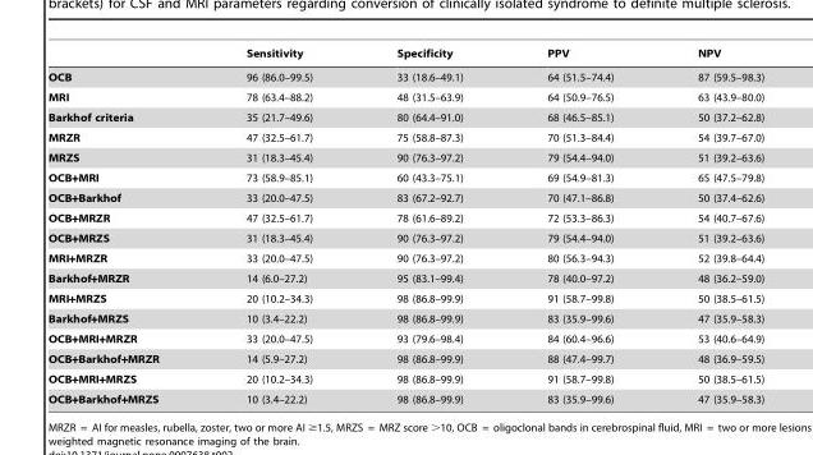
<table><thead><tr><td></td><td>Sensitivity</td><td>Specificity</td><td>PPV</td><td>NPV</td></tr></thead><tbody><tr><td>OCB</td><td>96 (86.0–99.5)</td><td>33 (18.6–49.1)</td><td>64 (51.5–74.4)</td><td>87 (59.5–98.3)</td></tr><tr><td>MRI</td><td>78 (63.4–88.2)</td><td>48 (31.5–63.9)</td><td>64 (50.9–76.5)</td><td>63 (43.9–80.0)</td></tr><tr><td>Barkhof criteria</td><td>35 (21.7–49.6)</td><td>80 (64.4–91.0)</td><td>68 (46.5–85.1)</td><td>50 (37.2–62.8)</td></tr><tr><td>MRZR</td><td>47 (32.5–61.7)</td><td>75 (58.8–87.3)</td><td>70 (51.3–84.4)</td><td>54 (39.7–67.0)</td></tr><tr><td>MRZS</td><td>31 (18.3–45.4)</td><td>90 (76.3–97.2)</td><td>79 (54.4–94.0)</td><td>51 (39.2–63.6)</td></tr><tr><td>OCB+MRI</td><td>73 (58.9–85.1)</td><td>60 (43.3–75.1)</td><td>69 (54.9–81.3)</td><td>65 (47.5–79.8)</td></tr><tr><td>OCB+Barkhof</td><td>33 (20.0–47.5)</td><td>83 (67.2–92.7)</td><td>70 (47.1–86.8)</td><td>50 (37.4–62.6)</td></tr><tr><td>OCB+MRZR</td><td>47 (32.5–61.7)</td><td>78 (61.6–89.2)</td><td>72 (53.3–86.3)</td><td>54 (40.7–67.6)</td></tr><tr><td>OCB+MRZS</td><td>31 (18.3–45.4)</td><td>90 (76.3–97.2)</td><td>79 (54.4–94.0)</td><td>51 (39.2–63.6)</td></tr><tr><td>MRI+MRZR</td><td>33 (20.0–47.5)</td><td>90 (76.3–97.2)</td><td>80 (56.3–94.3)</td><td>52 (39.8–64.4)</td></tr><tr><td>Barkhof+MRZR</td><td>14 (6.0–27.2)</td><td>95 (83.1–99.4)</td><td>78 (40.0–97.2)</td><td>48 (36.2–59.0)</td></tr><tr><td>MRI+MRZS</td><td>20 (10.2–34.3)</td><td>98 (86.8–99.9)</td><td>91 (58.7–99.8)</td><td>50 (38.5–61.5)</td></tr><tr><td>Barkhof+MRZS</td><td>10 (3.4–22.2)</td><td>98 (86.8–99.9)</td><td>83 (35.9–99.6)</td><td>47 (35.9–58.3)</td></tr><tr><td>OCB+MRI+MRZR</td><td>33 (20.0–47.5)</td><td>93 (79.6–98.4)</td><td>84 (60.4–96.6)</td><td>53 (40.6–64.9)</td></tr><tr><td>OCB+Barkhof+MRZR</td><td>14 (5.9–27.2)</td><td>98 (86.8–99.9)</td><td>88 (47.4–99.7)</td><td>48 (36.9–59.5)</td></tr><tr><td>OCB+MRI+MRZS</td><td>20 (10.2–34.3)</td><td>98 (86.8–99.9)</td><td>91 (58.7–99.8)</td><td>50 (38.5–61.5)</td></tr><tr><td>OCB+Barkhof+MRZS</td><td>10 (3.4–22.2)</td><td>98 (86.8–99.9)</td><td>83 (35.9–99.6)</td><td>47 (35.9–58.3)</td></tr></tbody></table>